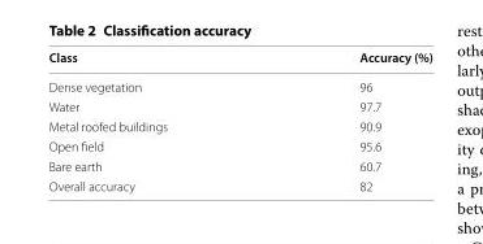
<table><thead><tr><td>Class</td><td>Accuracy (%)</td></tr></thead><tbody><tr><td>Dense vegetation</td><td>96</td></tr><tr><td>Water</td><td>97.7</td></tr><tr><td>Metal roofed buildings</td><td>90.9</td></tr><tr><td>Open field</td><td>95.6</td></tr><tr><td>Bare earth</td><td>60.7</td></tr><tr><td>Overall accuracy</td><td>82</td></tr></tbody></table>